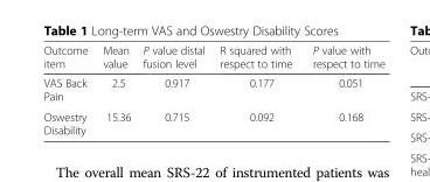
<table><thead><tr><td>Outcome item</td><td>Mean value</td><td>P value distal fusion level</td><td>R squared with respect to time</td><td>P value with respect to time</td></tr></thead><tbody><tr><td>VAS Back Pain</td><td>2.5</td><td>0.917</td><td>0.177</td><td>0.051</td></tr><tr><td>Oswestry Disability</td><td>15.36</td><td>0.715</td><td>0.092</td><td>0.168</td></tr></tbody></table>